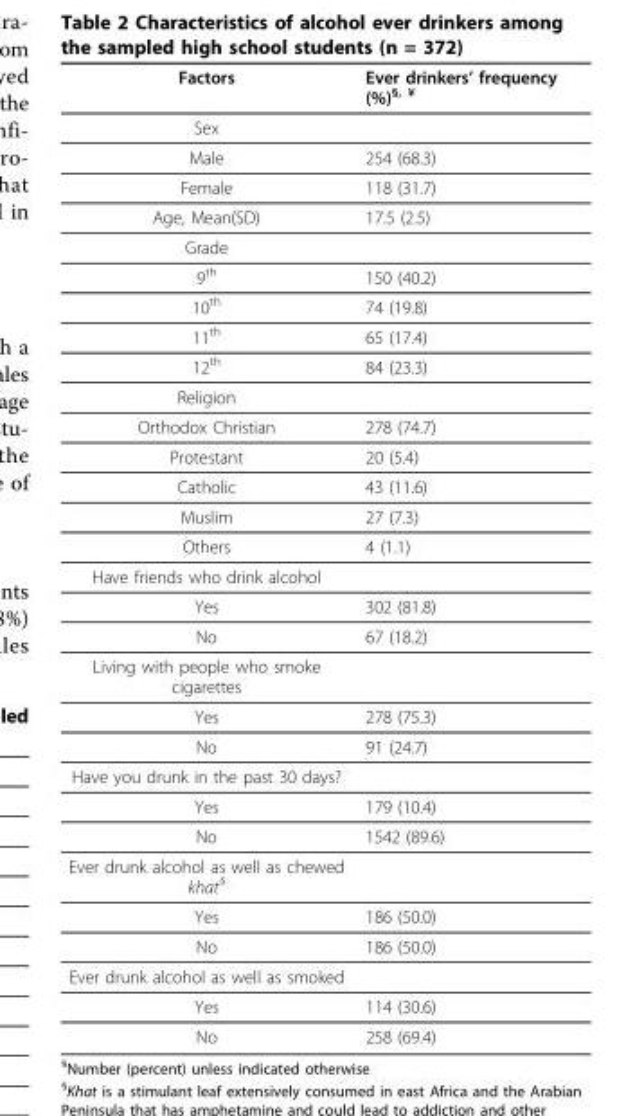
<table><thead><tr><td>Factors</td><td>Ever drinkers’ frequency (%)<sup>§, ¥</sup></td></tr></thead><tbody><tr><td colspan="2">Sex</td></tr><tr><td>Male</td><td>254 (68.3)</td></tr><tr><td>Female</td><td>118 (31.7)</td></tr><tr><td>Age, Mean(SD)</td><td>17.5 (2.5)</td></tr><tr><td colspan="2">Grade</td></tr><tr><td>9<sup>th</sup></td><td>150 (40.2)</td></tr><tr><td>10<sup>th</sup></td><td>74 (19.8)</td></tr><tr><td>11<sup>th</sup></td><td>65 (17.4)</td></tr><tr><td>12<sup>th</sup></td><td>84 (23.3)</td></tr><tr><td colspan="2">Religion</td></tr><tr><td>Orthodox Christian</td><td>278 (74.7)</td></tr><tr><td>Protestant</td><td>20 (5.4)</td></tr><tr><td>Catholic</td><td>43 (11.6)</td></tr><tr><td>Muslim</td><td>27 (7.3)</td></tr><tr><td>Others</td><td>4 (1.1)</td></tr><tr><td colspan="2">Have friends who drink alcohol</td></tr><tr><td>Yes</td><td>302 (81.8)</td></tr><tr><td>No</td><td>67 (18.2)</td></tr><tr><td colspan="2">Living with people who smoke cigarettes</td></tr><tr><td>Yes</td><td>278 (75.3)</td></tr><tr><td>No</td><td>91 (24.7)</td></tr><tr><td colspan="2">Have you drunk in the past 30 days?</td></tr><tr><td>Yes</td><td>179 (10.4)</td></tr><tr><td>No</td><td>1542 (89.6)</td></tr><tr><td colspan="2">Ever drunk alcohol as well as chewed khat<sup>§</sup></td></tr><tr><td>Yes</td><td>186 (50.0)</td></tr><tr><td>No</td><td>186 (50.0)</td></tr><tr><td colspan="2">Ever drunk alcohol as well as smoked</td></tr><tr><td>Yes</td><td>114 (30.6)</td></tr><tr><td>No</td><td>258 (69.4)</td></tr></tbody></table>